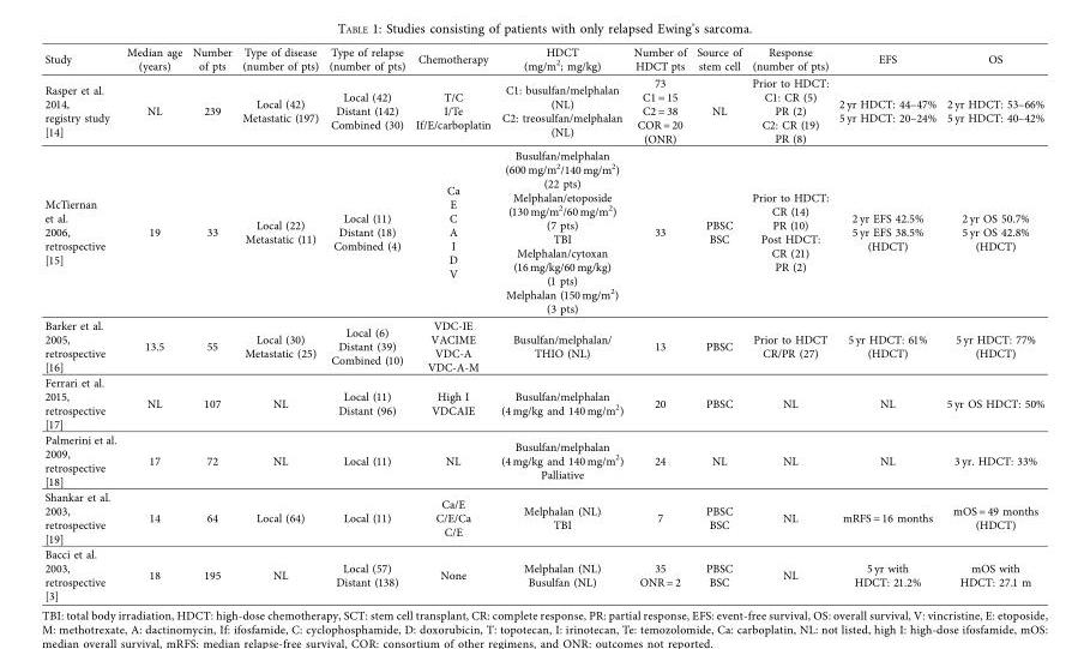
<table><thead><tr><td>Study</td><td>Median age (years)</td><td>Number of pts</td><td>Type of disease (number of pts)</td><td>Type of relapse (number of pts)</td><td>Chemotherapy</td><td>HDCT (mg/m<sup>2</sup>; mg/kg)</td><td>Number of HDCT pts</td><td>Source of stem cell</td><td>Response (number of pts)</td><td>EFS</td><td>OS</td></tr></thead><tbody><tr><td>Rasper et al. 2014, registry study [14]</td><td>NL</td><td>239</td><td>Local (42) Metastatic (197)</td><td>Local (42) Distant (142) Combined (30)</td><td>T/C I/Te If/E/carboplatin</td><td>C1: busulfan/melphalan (NL) C2: treosulfan/melphalan (NL)</td><td>73 C1 = 15 C2 = 38 COR = 20 (ONR)</td><td>NL</td><td>Prior to HDCT: C1: CR (5) PR (2) C2: CR (19) PR (8)</td><td>2 yr HDCT: 44–47% 5 yr HDCT: 20–24%</td><td>2 yr HDCT: 53–66% 5 yr HDCT: 40–42%</td></tr><tr><td>McTiernan et al. 2006, retrospective [15]</td><td>19</td><td>33</td><td>Local (22) Metastatic (11)</td><td>Local (11) Distant (18) Combined (4)</td><td>Ca E C A I D V</td><td>Busulfan/melphalan (600 mg/m<sup>2</sup>/140 mg/m<sup>2</sup>) (22 pts) Melphalan/etoposide (130 mg/m<sup>2</sup>/60 mg/m<sup>2</sup>) (7 pts) TBI Melphalan/cytoxan (16 mg/kg/60 mg/kg) (1 pts) Melphalan (150 mg/m<sup>2</sup>) (3 pts)</td><td>33</td><td>PBSC BSC</td><td>Prior to HDCT: CR (14) PR (10) Post HDCT: CR (21) PR (2)</td><td>2 yr EFS 42.5% 5 yr EFS 38.5% (HDCT)</td><td>2 yr OS 50.7% 5 yr OS 42.8% (HDCT)</td></tr><tr><td>Barker et al. 2005, retrospective [16]</td><td>13.5</td><td>55</td><td>Local (30) Metastatic (25)</td><td>Local (6) Distant (39) Combined (10)</td><td>VDC-IE VACIME VDC-A VDC-A-M</td><td>Busulfan/melphalan/ THIO (NL)</td><td>13</td><td>PBSC</td><td>Prior to HDCT CR/PR (27)</td><td>5 yr HDCT: 61% (HDCT)</td><td>5 yr HDCT: 77% (HDCT)</td></tr><tr><td>Ferrari et al. 2015, retrospective [17]</td><td>NL</td><td>107</td><td>NL</td><td>Local (11) Distant (96)</td><td>High I VDCAIE</td><td>Busulfan/melphalan (4 mg/kg and 140 mg/m<sup>2</sup>)</td><td>20</td><td>PBSC</td><td>NL</td><td>NL</td><td>5 yr OS HDCT: 50%</td></tr><tr><td>Palmerini et al. 2009, retrospective [18]</td><td>17</td><td>72</td><td>NL</td><td>Local (11)</td><td>NL</td><td>Busulfan/melphalan (4 mg/kg and 140 mg/m<sup>2</sup>) Palliative</td><td>24</td><td>NL</td><td>NL</td><td>NL</td><td>3 yr. HDCT: 33%</td></tr><tr><td>Shankar et al. 2003, retrospective [19]</td><td>14</td><td>64</td><td>Local (64)</td><td>Local (11)</td><td>Ca/E C/E/Ca C/E</td><td>Melphalan (NL) TBI</td><td>7</td><td>PBSC BSC</td><td>NL</td><td>mRFS = 16 months</td><td>mOS = 49 months (HDCT)</td></tr><tr><td>Bacci et al. 2003, retrospective [3]</td><td>18</td><td>195</td><td>NL</td><td>Local (57) Distant (138)</td><td>None</td><td>Melphalan (NL) Busulfan (NL)</td><td>35 ONR = 2</td><td>PBSC BSC</td><td>NL</td><td>5 yr with HDCT: 21.2%</td><td>mOS with HDCT: 27.1 m</td></tr></tbody></table>